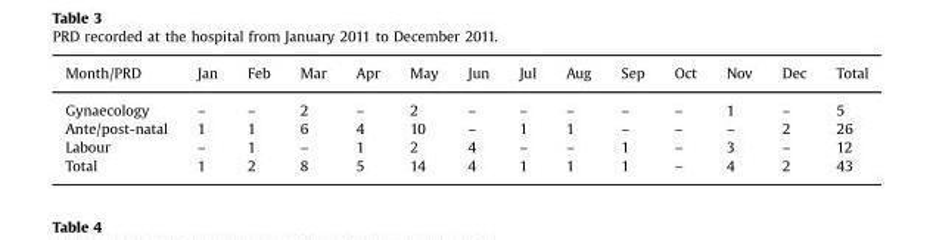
<table><thead><tr><td>Month/PRD</td><td>Jan</td><td>Feb</td><td>Mar</td><td>Apr</td><td>May</td><td>Jun</td><td>Jul</td><td>Aug</td><td>Sep</td><td>Oct</td><td>Nov</td><td>Dec</td><td>Total</td></tr></thead><tbody><tr><td>Gynaecology</td><td>–</td><td>–</td><td>2</td><td>–</td><td>2</td><td>–</td><td>–</td><td>–</td><td>–</td><td>–</td><td>1</td><td>–</td><td>5</td></tr><tr><td>Ante/post-natal</td><td>1</td><td>1</td><td>6</td><td>4</td><td>10</td><td>–</td><td>1</td><td>1</td><td>–</td><td>–</td><td>–</td><td>2</td><td>26</td></tr><tr><td>Labour</td><td>–</td><td>1</td><td>–</td><td>1</td><td>2</td><td>4</td><td>–</td><td>–</td><td>1</td><td>–</td><td>3</td><td>–</td><td>12</td></tr><tr><td>Total</td><td>1</td><td>2</td><td>8</td><td>5</td><td>14</td><td>4</td><td>1</td><td>1</td><td>1</td><td>–</td><td>4</td><td>2</td><td>43</td></tr></tbody></table>